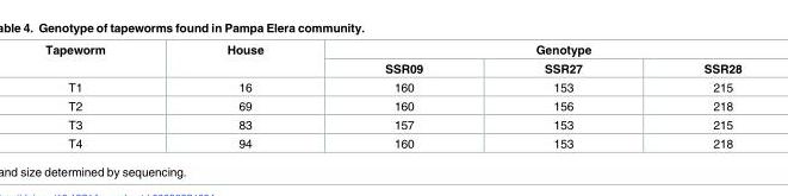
<table><thead><tr><td rowspan="2">Tapeworm</td><td rowspan="2">House</td><td colspan="3">Genotype</td></tr><tr><td>SSR09</td><td>SSR27</td><td>SSR28</td></tr></thead><tbody><tr><td>T1</td><td>16</td><td>160</td><td>153</td><td>215</td></tr><tr><td>T2</td><td>69</td><td>160</td><td>156</td><td>218</td></tr><tr><td>T3</td><td>83</td><td>157</td><td>153</td><td>215</td></tr><tr><td>T4</td><td>94</td><td>160</td><td>153</td><td>218</td></tr></tbody></table>